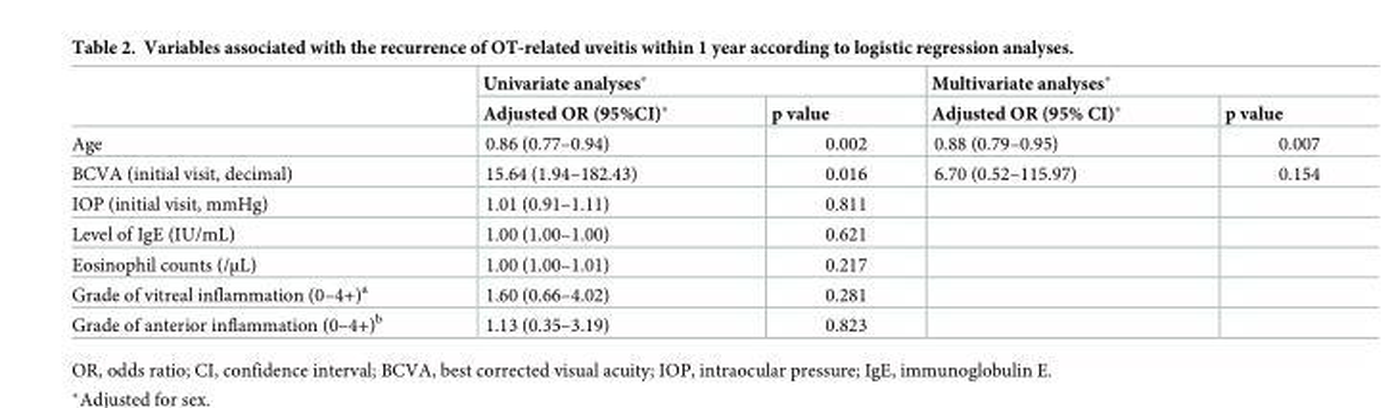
<table><thead><tr><td rowspan="2"></td><td colspan="2">Univariate analyses*</td><td colspan="2">Multivariate analyses*</td></tr><tr><td>Adjusted OR (95%CI)*</td><td>p value</td><td>Adjusted OR (95% CI)*</td><td>p value</td></tr></thead><tbody><tr><td>Age</td><td>0.86 (0.77–0.94)</td><td>0.002</td><td>0.88 (0.79–0.95)</td><td>0.007</td></tr><tr><td>BCVA (initial visit, decimal)</td><td>15.64 (1.94–182.43)</td><td>0.016</td><td>6.70 (0.52–115.97)</td><td>0.154</td></tr><tr><td>IOP (initial visit, mmHg)</td><td>1.01 (0.91–1.11)</td><td>0.811</td><td></td><td></td></tr><tr><td>Level of IgE (IU/mL)</td><td>1.00 (1.00–1.00)</td><td>0.621</td><td></td><td></td></tr><tr><td>Eosinophil counts (/μL)</td><td>1.00 (1.00–1.01)</td><td>0.217</td><td></td><td></td></tr><tr><td>Grade of vitreal inflammation (0–4+)<sup>a</sup></td><td>1.60 (0.66–4.02)</td><td>0.281</td><td></td><td></td></tr><tr><td>Grade of anterior inflammation (0–4+)<sup>b</sup></td><td>1.13 (0.35–3.19)</td><td>0.823</td><td></td><td></td></tr></tbody></table>